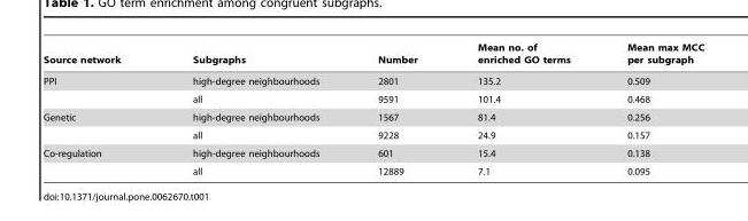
<table><thead><tr><td>Source network</td><td>Subgraphs</td><td>Number</td><td>Mean no. of enriched GO terms</td><td>Mean max MCC per subgraph</td></tr></thead><tbody><tr><td rowspan="2">PPI</td><td>high-degree neighbourhoods</td><td>2801</td><td>135.2</td><td>0.509</td></tr><tr><td>all</td><td>9591</td><td>101.4</td><td>0.468</td></tr><tr><td rowspan="2">Genetic</td><td>high-degree neighbourhoods</td><td>1567</td><td>81.4</td><td>0.256</td></tr><tr><td>all</td><td>9228</td><td>24.9</td><td>0.157</td></tr><tr><td rowspan="2">Co-regulation</td><td>high-degree neighbourhoods</td><td>601</td><td>15.4</td><td>0.138</td></tr><tr><td>all</td><td>12889</td><td>7.1</td><td>0.095</td></tr></tbody></table>